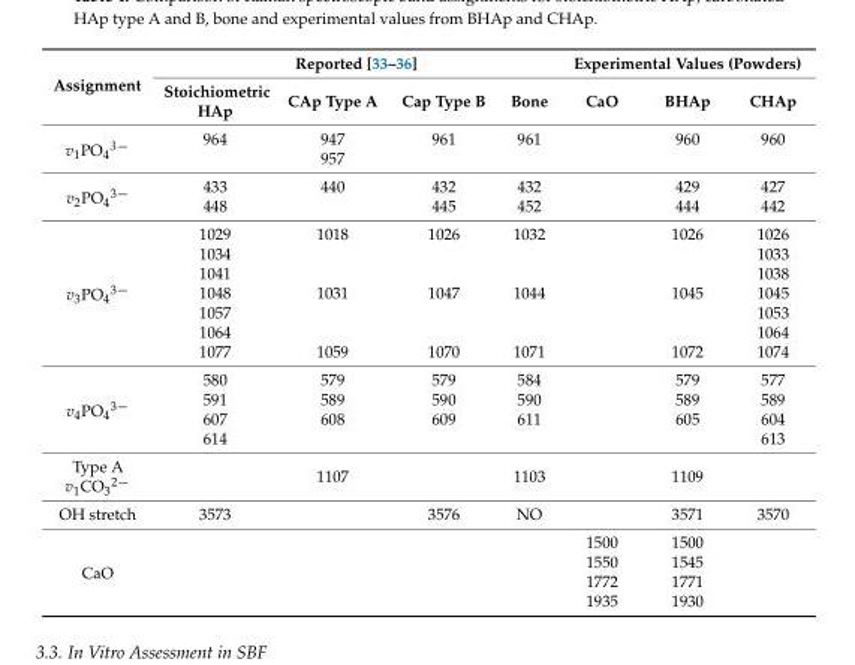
<table><thead><tr><td rowspan="2">Assignment</td><td colspan="4">Reported [33–36]</td><td colspan="3">Experimental Values (Powders)</td></tr><tr><td>Stoichiometric HAp</td><td>CAp Type A</td><td>Cap Type B</td><td>Bone</td><td>CaO</td><td>BHAp</td><td>CHAp</td></tr></thead><tbody><tr><td rowspan="2">v<sub>1</sub>PO<sub>4</sub><sup>3−</sup></td><td>964</td><td>947</td><td>961</td><td>961</td><td></td><td>960</td><td>960</td></tr><tr><td></td><td>957</td><td></td><td></td><td></td><td></td><td></td></tr><tr><td rowspan="2">v<sub>2</sub>PO<sub>4</sub><sup>3−</sup></td><td>433</td><td>440</td><td>432</td><td>432</td><td></td><td>429</td><td>427</td></tr><tr><td>448</td><td></td><td>445</td><td>452</td><td></td><td>444</td><td>442</td></tr><tr><td rowspan="7">v<sub>3</sub>PO<sub>4</sub><sup>3−</sup></td><td>1029</td><td>1018</td><td>1026</td><td>1032</td><td></td><td>1026</td><td>1026</td></tr><tr><td>1034</td><td></td><td></td><td></td><td></td><td></td><td>1033</td></tr><tr><td>1041</td><td></td><td></td><td></td><td></td><td></td><td>1038</td></tr><tr><td>1048</td><td>1031</td><td>1047</td><td>1044</td><td></td><td>1045</td><td>1045</td></tr><tr><td>1057</td><td></td><td></td><td></td><td></td><td></td><td>1053</td></tr><tr><td>1064</td><td></td><td></td><td></td><td></td><td></td><td>1064</td></tr><tr><td>1077</td><td>1059</td><td>1070</td><td>1071</td><td></td><td>1072</td><td>1074</td></tr><tr><td rowspan="4">v4PO43−</td><td>580</td><td>579</td><td>579</td><td>584</td><td></td><td>579</td><td>577</td></tr><tr><td>591</td><td>589</td><td>590</td><td>590</td><td></td><td>589</td><td>589</td></tr><tr><td>607</td><td>608</td><td>609</td><td>611</td><td></td><td>605</td><td>604</td></tr><tr><td>614</td><td></td><td></td><td></td><td></td><td></td><td>613</td></tr><tr><td>Type A v<sub>1</sub>CO<sub>3</sub><sup>2−</sup></td><td></td><td>1107</td><td></td><td>1103</td><td></td><td>1109</td><td></td></tr><tr><td>OH stretch</td><td>3573</td><td></td><td>3576</td><td>NO</td><td></td><td>3571</td><td>3570</td></tr><tr><td rowspan="4">CaO</td><td></td><td></td><td></td><td></td><td>1500</td><td>1500</td><td></td></tr><tr><td></td><td></td><td></td><td></td><td>1550</td><td>1545</td><td></td></tr><tr><td></td><td></td><td></td><td></td><td>1772</td><td>1771</td><td></td></tr><tr><td></td><td></td><td></td><td></td><td>1935</td><td>1930</td><td></td></tr></tbody></table>